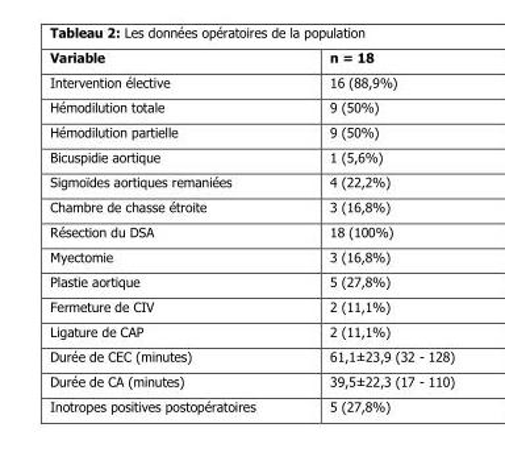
<table><thead><tr><td>Variable</td><td>n = 18</td></tr></thead><tbody><tr><td>Intervention élective</td><td>16 (88,9%)</td></tr><tr><td>Hémodilution totale</td><td>9 (50%)</td></tr><tr><td>Hémodilution partielle</td><td>9 (50%)</td></tr><tr><td>Bicuspidie aortique</td><td>1 (5,6%)</td></tr><tr><td>Sigmoïdes aortiques remaniées</td><td>4 (22,2%)</td></tr><tr><td>Chambre de chasse étroite</td><td>3 (16,8%)</td></tr><tr><td>Résection du DSA</td><td>18 (100%)</td></tr><tr><td>Myectomie</td><td>3 (16,8%)</td></tr><tr><td>Plastie aortique</td><td>5 (27,8%)</td></tr><tr><td>Fermeture de CIV</td><td>2 (11,1%)</td></tr><tr><td>Ligature de CAP</td><td>2 (11,1%)</td></tr><tr><td>Durée de CEC (minutes)</td><td>61,1±23,9 (32 - 128)</td></tr><tr><td>Durée de CA (minutes)</td><td>39,5±22,3 (17 - 110)</td></tr><tr><td>Inotropes positives postopératoires</td><td>5 (27,8%)</td></tr></tbody></table>